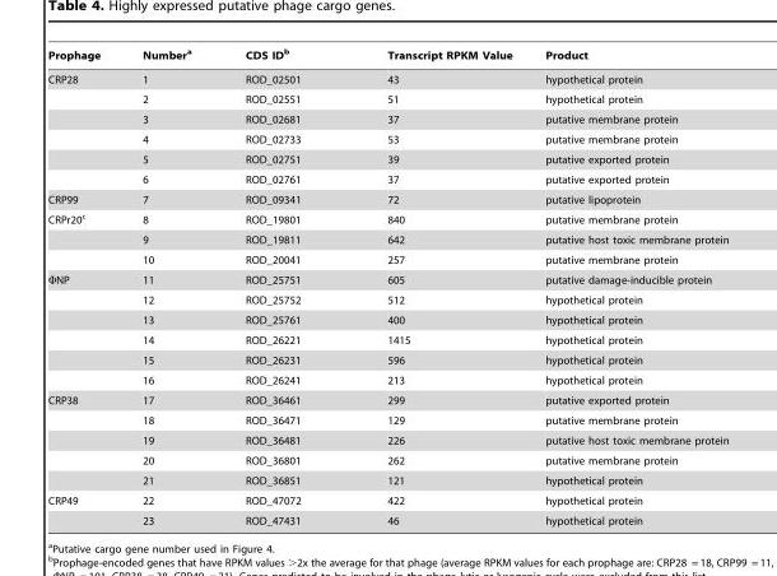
<table><thead><tr><td>Prophage</td><td>Number<sup>a</sup></td><td>CDS ID<sup>b</sup></td><td>Transcript RPKM Value</td><td>Product</td></tr></thead><tbody><tr><td rowspan="6">CRP28</td><td>1</td><td>ROD_02501</td><td>43</td><td>hypothetical protein</td></tr><tr><td>2</td><td>ROD_02551</td><td>51</td><td>hypothetical protein</td></tr><tr><td>3</td><td>ROD_02681</td><td>37</td><td>putative membrane protein</td></tr><tr><td>4</td><td>ROD_02733</td><td>53</td><td>putative membrane protein</td></tr><tr><td>5</td><td>ROD_02751</td><td>39</td><td>putative exported protein</td></tr><tr><td>6</td><td>ROD_02761</td><td>37</td><td>putative exported protein</td></tr><tr><td>CRP99</td><td>7</td><td>ROD_09341</td><td>72</td><td>putative lipoprotein</td></tr><tr><td rowspan="3">CRPr20<sup>c</sup></td><td>8</td><td>ROD_19801</td><td>840</td><td>putative membrane protein</td></tr><tr><td>9</td><td>ROD_19811</td><td>642</td><td>putative host toxic membrane protein</td></tr><tr><td>10</td><td>ROD_20041</td><td>257</td><td>putative membrane protein</td></tr><tr><td rowspan="6">ΦNP</td><td>11</td><td>ROD_25751</td><td>605</td><td>putative damage-inducible protein</td></tr><tr><td>12</td><td>ROD_25752</td><td>512</td><td>hypothetical protein</td></tr><tr><td>13</td><td>ROD_25761</td><td>400</td><td>hypothetical protein</td></tr><tr><td>14</td><td>ROD_26221</td><td>1415</td><td>hypothetical protein</td></tr><tr><td>15</td><td>ROD_26231</td><td>596</td><td>hypothetical protein</td></tr><tr><td>16</td><td>ROD_26241</td><td>213</td><td>hypothetical protein</td></tr><tr><td rowspan="5">CRP38</td><td>17</td><td>ROD_36461</td><td>299</td><td>putative exported protein</td></tr><tr><td>18</td><td>ROD_36471</td><td>129</td><td>putative membrane protein</td></tr><tr><td>19</td><td>ROD_36481</td><td>226</td><td>putative host toxic membrane protein</td></tr><tr><td>20</td><td>ROD_36801</td><td>262</td><td>putative membrane protein</td></tr><tr><td>21</td><td>ROD_36851</td><td>121</td><td>hypothetical protein</td></tr><tr><td rowspan="2">CRP49</td><td>22</td><td>ROD_47072</td><td>422</td><td>hypothetical protein</td></tr><tr><td>23</td><td>ROD_47431</td><td>46</td><td>hypothetical protein</td></tr></tbody></table>